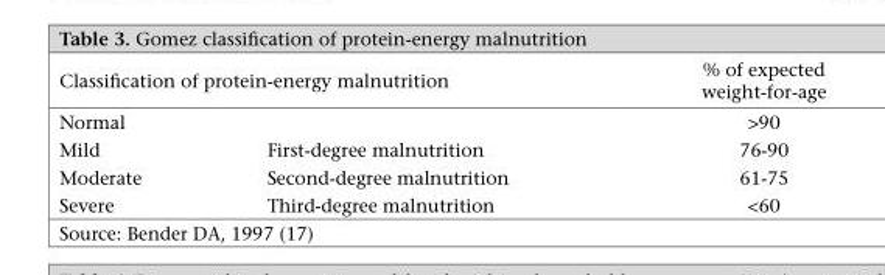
<table><thead><tr><td rowspan="2" colspan="2">Classification of protein-energy malnutrition Normal</td><td rowspan="3">% of expected weight-for-age &gt;90 76-90</td></tr><tr></tr><tr><td>Mild</td><td>First-degree malnutrition</td></tr></thead><tbody><tr><td>Moderate</td><td>Second-degree malnutrition</td><td>61-75</td></tr><tr><td>Severe</td><td>Third-degree malnutrition</td><td>&lt;60</td></tr></tbody></table>